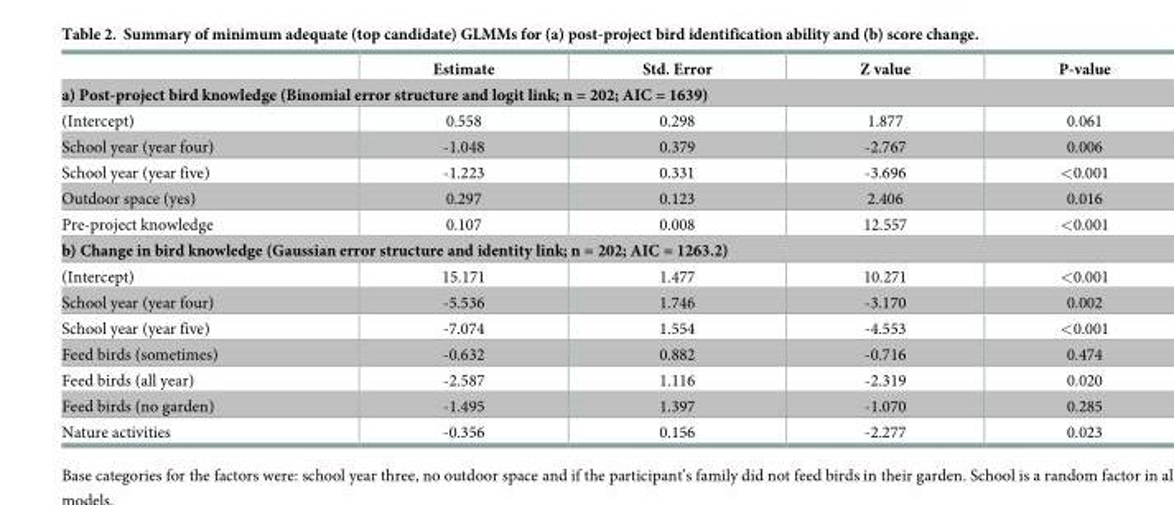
<table><thead><tr><td></td><td>Estimate</td><td>Std. Error</td><td>Z value</td><td>P-value</td></tr></thead><tbody><tr><td colspan="5">a) Post-project bird knowledge (Binomial error structure and logit link; n = 202; AIC = 1639)</td></tr><tr><td>(Intercept)</td><td>0.558</td><td>0.298</td><td>1.877</td><td>0.061</td></tr><tr><td>School year (year four)</td><td>-1.048</td><td>0.379</td><td>-2.767</td><td>0.006</td></tr><tr><td>School year (year five)</td><td>-1.223</td><td>0.331</td><td>-3.696</td><td>&lt;0.001</td></tr><tr><td>Outdoor space (yes)</td><td>0.297</td><td>0.123</td><td>2.406</td><td>0.016</td></tr><tr><td>Pre-project knowledge</td><td>0.107</td><td>0.008</td><td>12.557</td><td>&lt;0.001</td></tr><tr><td colspan="5">b) Change in bird knowledge (Gaussian error structure and identity link; n = 202; AIC = 1263.2)</td></tr><tr><td>(Intercept)</td><td>15.171</td><td>1.477</td><td>10.271</td><td>&lt;0.001</td></tr><tr><td>School year (year four)</td><td>-5.536</td><td>1.746</td><td>-3.170</td><td>0.002</td></tr><tr><td>School year (year five)</td><td>-7.074</td><td>1.554</td><td>-4.553</td><td>&lt;0.001</td></tr><tr><td>Feed birds (sometimes)</td><td>-0.632</td><td>0.882</td><td>-0.716</td><td>0.474</td></tr><tr><td>Feed birds (all year)</td><td>-2.587</td><td>1.116</td><td>-2.319</td><td>0.020</td></tr><tr><td>Feed birds (no garden)</td><td>-1.495</td><td>1.397</td><td>-1.070</td><td>0.285</td></tr><tr><td>Nature activities</td><td>-0.356</td><td>0.156</td><td>-2.277</td><td>0.023</td></tr></tbody></table>